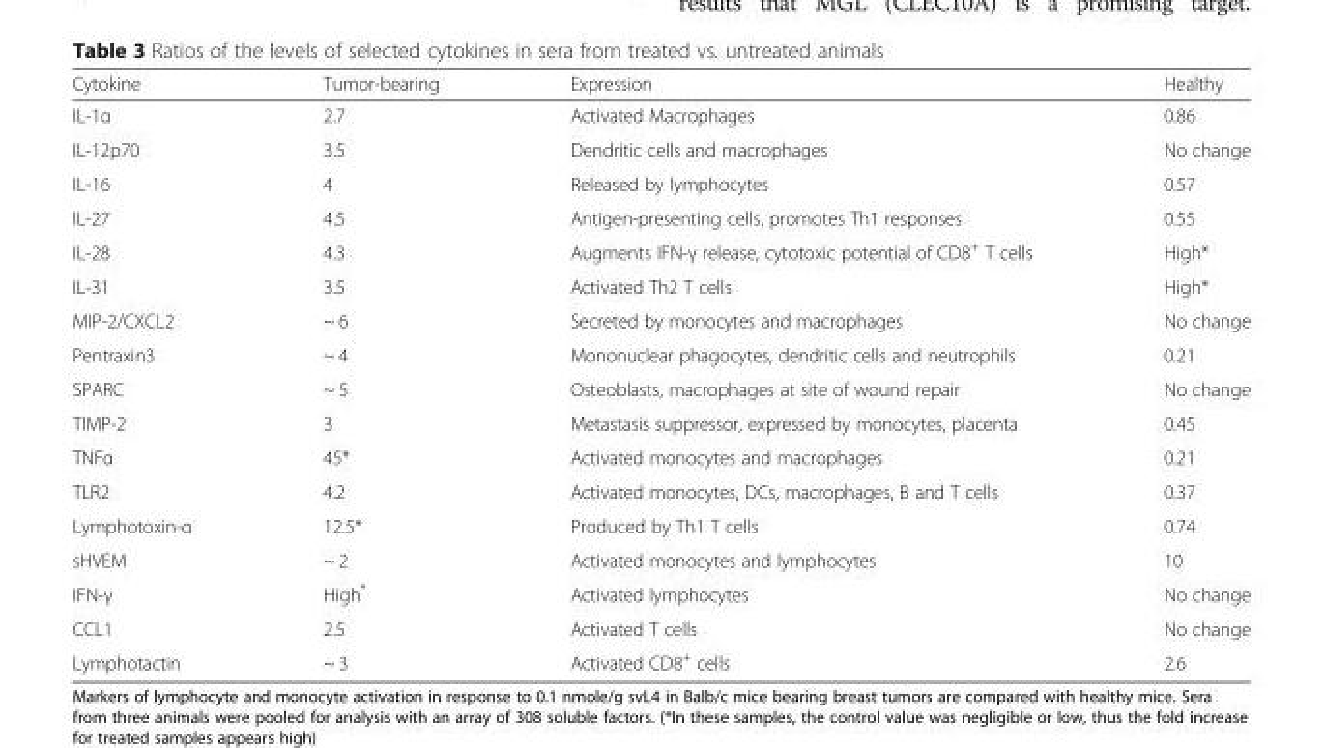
<table><thead><tr><td>Cytokine</td><td>Tumor-bearing</td><td>Expression</td><td>Healthy</td></tr></thead><tbody><tr><td>IL-1α</td><td>2.7</td><td>Activated Macrophages</td><td>0.86</td></tr><tr><td>IL-12p70</td><td>3.5</td><td>Dendritic cells and macrophages</td><td>No change</td></tr><tr><td>IL-16</td><td>4</td><td>Released by lymphocytes</td><td>0.57</td></tr><tr><td>IL-27</td><td>4.5</td><td>Antigen-presenting cells, promotes Th1 responses</td><td>0.55</td></tr><tr><td>IL-28</td><td>4.3</td><td>Augments IFN-γ release, cytotoxic potential of CD8<sup>+</sup> T cells</td><td>High*</td></tr><tr><td>IL-31</td><td>3.5</td><td>Activated Th2 T cells</td><td>High*</td></tr><tr><td>MIP-2/CXCL2</td><td>~ 6</td><td>Secreted by monocytes and macrophages</td><td>No change</td></tr><tr><td>Pentraxin3</td><td>~ 4</td><td>Mononuclear phagocytes, dendritic cells and neutrophils</td><td>0.21</td></tr><tr><td>SPARC</td><td>~ 5</td><td>Osteoblasts, macrophages at site of wound repair</td><td>No change</td></tr><tr><td>TIMP-2</td><td>3</td><td>Metastasis suppressor, expressed by monocytes, placenta</td><td>0.45</td></tr><tr><td>TNFα</td><td>45*</td><td>Activated monocytes and macrophages</td><td>0.21</td></tr><tr><td>TLR2</td><td>4.2</td><td>Activated monocytes, DCs, macrophages, B and T cells</td><td>0.37</td></tr><tr><td>Lymphotoxin-α</td><td>12.5*</td><td>Produced by Th1 T cells</td><td>0.74</td></tr><tr><td>sHVEM</td><td>~ 2</td><td>Activated monocytes and lymphocytes</td><td>10</td></tr><tr><td>IFN-γ</td><td>High*</td><td>Activated lymphocytes</td><td>No change</td></tr><tr><td>CCL1</td><td>2.5</td><td>Activated T cells</td><td>No change</td></tr><tr><td>Lymphotactin</td><td>~ 3</td><td>Activated CD8<sup>+</sup> cells</td><td>2.6</td></tr></tbody></table>